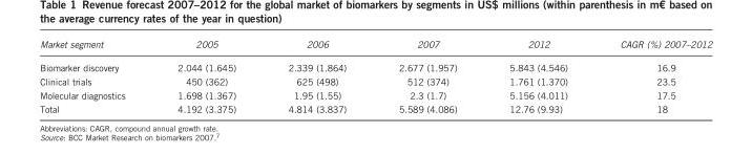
<table><thead><tr><td>Market segment</td><td>2005</td><td>2006</td><td>2007</td><td>2012</td><td>CAGR (%) 2007–2012</td></tr></thead><tbody><tr><td>Biomarker discovery</td><td>2.044 (1.645)</td><td>2.339 (1.864)</td><td>2.677 (1.957)</td><td>5.843 (4.546)</td><td>16.9</td></tr><tr><td>Clinical trials</td><td>450 (362)</td><td>625 (498)</td><td>512 (374)</td><td>1.761 (1.370)</td><td>23.5</td></tr><tr><td>Molecular diagnostics</td><td>1.698 (1.367)</td><td>1.95 (1.55)</td><td>2.3 (1.7)</td><td>5.156 (4.011)</td><td>17.5</td></tr><tr><td>Total</td><td>4.192 (3.375)</td><td>4.814 (3.837)</td><td>5.589 (4.086)</td><td>12.76 (9.93)</td><td>18</td></tr></tbody></table>